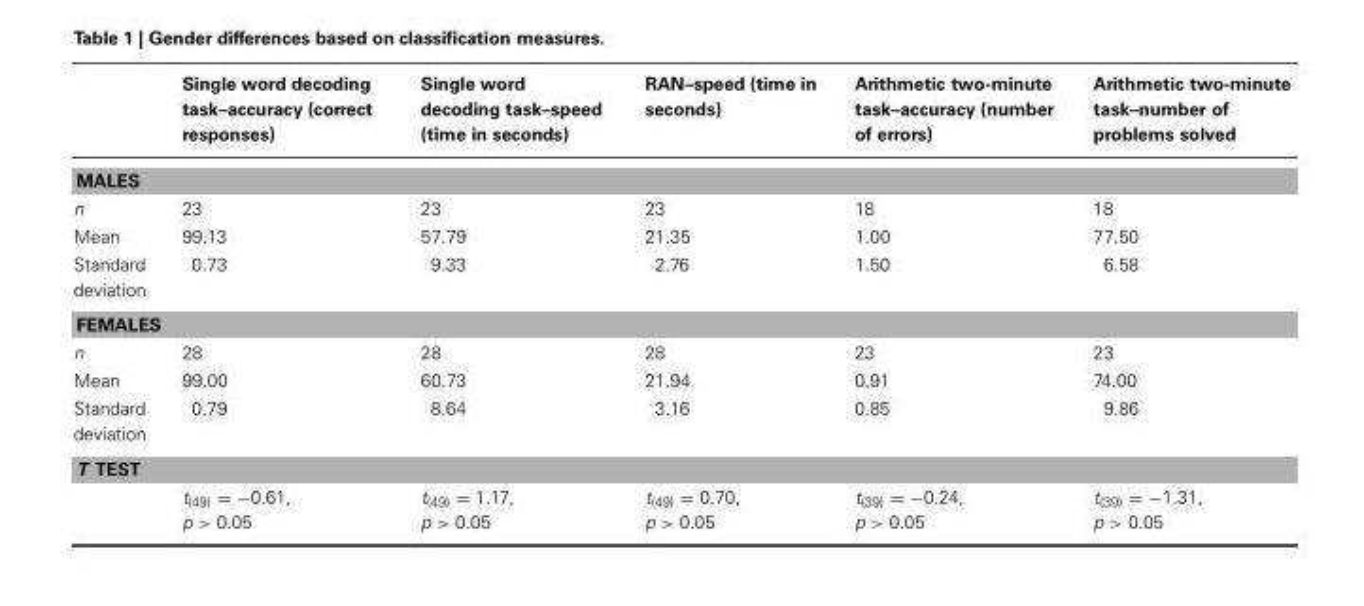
<table><thead><tr><td></td><td>Single word decoding task–accuracy (correct responses)</td><td>Single word decoding task–speed (time in seconds)</td><td>RAN–speed (time in seconds)</td><td>Arithmetic two-minute task–accuracy (number of errors)</td><td>Arithmetic two-minute task–number of problems solved</td></tr></thead><tbody><tr><td colspan="6">MALES</td></tr><tr><td>n</td><td>23</td><td>23</td><td>23</td><td>18</td><td>18</td></tr><tr><td>Mean</td><td>99.13</td><td>57.79</td><td>21.35</td><td>1.00</td><td>77.50</td></tr><tr><td>Standard deviation</td><td>0.73</td><td>9.33</td><td>2.76</td><td>1.50</td><td>6.58</td></tr><tr><td colspan="6">FEMALES</td></tr><tr><td>n</td><td>28</td><td>28</td><td>28</td><td>23</td><td>23</td></tr><tr><td>Mean</td><td>99.00</td><td>60.73</td><td>21.94</td><td>0.91</td><td>74.00</td></tr><tr><td>Standard deviation</td><td>0.79</td><td>8.64</td><td>3.16</td><td>0.85</td><td>9.86</td></tr><tr><td colspan="6">T TEST</td></tr><tr><td></td><td>t<sub>(49)</sub> = −0.61, p &gt; 0.05</td><td>t<sub>(49)</sub> = 1.17, p &gt; 0.05</td><td>t<sub>(49)</sub> = 0.70, p &gt; 0.05</td><td>t<sub>(39)</sub> = −0.24, p &gt; 0.05</td><td>t<sub>(39)</sub> = −1.31, p &gt; 0.05</td></tr></tbody></table>